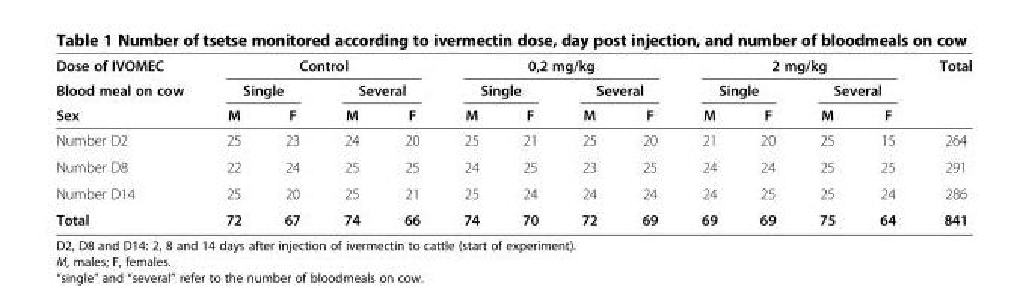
<table><thead><tr><td rowspan="3">Dose of IVOMEC Blood meal on cow Sex</td><td colspan="4">Control</td><td colspan="4">0,2 mg/kg</td><td colspan="4">2 mg/kg</td><td rowspan="3">Total</td></tr><tr><td colspan="2">Single</td><td colspan="2">Several</td><td colspan="2">Single</td><td colspan="2">Several</td><td colspan="2">Single</td><td colspan="2">Several</td></tr><tr><td>M</td><td>F</td><td>M</td><td>F</td><td>M</td><td>F</td><td>M</td><td>F</td><td>M</td><td>F</td><td>M</td><td>F</td></tr></thead><tbody><tr><td>Number D2</td><td>25</td><td>23</td><td>24</td><td>20</td><td>25</td><td>21</td><td>25</td><td>20</td><td>21</td><td>20</td><td>25</td><td>15</td><td>264</td></tr><tr><td>Number D8</td><td>22</td><td>24</td><td>25</td><td>25</td><td>24</td><td>25</td><td>23</td><td>25</td><td>24</td><td>24</td><td>25</td><td>25</td><td>291</td></tr><tr><td>Number D14</td><td>25</td><td>20</td><td>25</td><td>21</td><td>25</td><td>24</td><td>24</td><td>24</td><td>24</td><td>25</td><td>25</td><td>24</td><td>286</td></tr><tr><td>Total</td><td>72</td><td>67</td><td>74</td><td>66</td><td>74</td><td>70</td><td>72</td><td>69</td><td>69</td><td>69</td><td>75</td><td>64</td><td>841</td></tr></tbody></table>